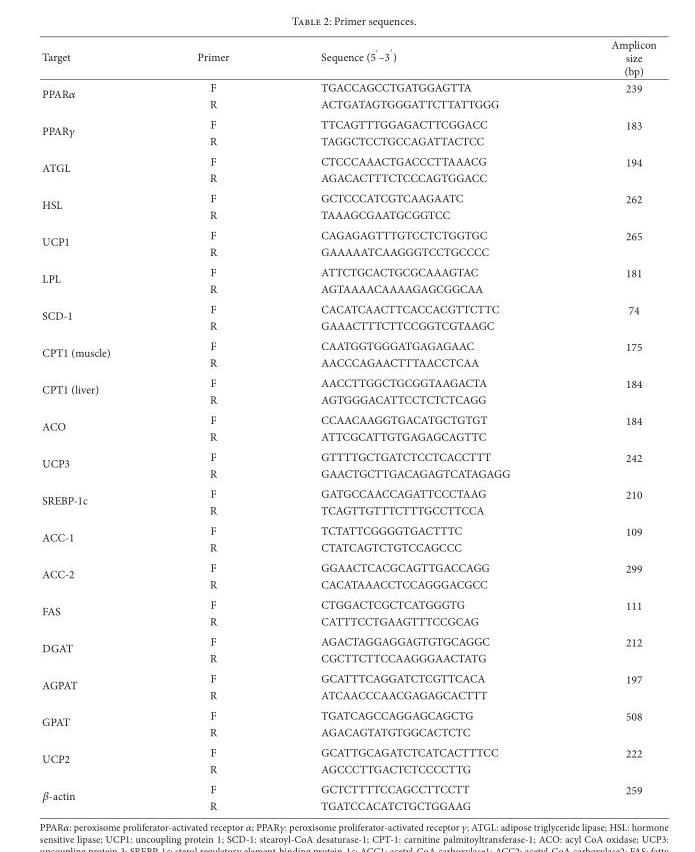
<table><thead><tr><td>Target</td><td>Primer</td><td>Sequence (5′–3′)</td><td>Amplicon size (bp)</td></tr></thead><tbody><tr><td rowspan="2">PPAR𝛼𝛼</td><td>F</td><td>TGACCAGCCTGATGGAGTTA</td><td>239</td></tr><tr><td>R</td><td>ACTGATAGTGGGATTCTTATTGGG</td><td></td></tr><tr><td rowspan="2">PPAR𝛾𝛾</td><td>F</td><td>TTCAGTTTGGAGACTTCGGACC</td><td>183</td></tr><tr><td>R</td><td>TAGGCTCCTGCCAGATTACTCC</td><td></td></tr><tr><td rowspan="2">ATGL</td><td>F</td><td>CTCCCAAACTGACCCTTAAACG</td><td>194</td></tr><tr><td>R</td><td>AGACACTTTCTCCCAGTGGACC</td><td></td></tr><tr><td rowspan="2">HSL</td><td>F</td><td>GCTCCCATCGTCAAGAATC</td><td>262</td></tr><tr><td>R</td><td>TAAAGCGAATGCGGTCC</td><td></td></tr><tr><td rowspan="2">UCP1</td><td>F</td><td>CAGAGAGTTTGTCCTCTGGTGC</td><td>265</td></tr><tr><td>R</td><td>GAAAAATCAAGGGTCCTGCCCC</td><td></td></tr><tr><td rowspan="2">LPL</td><td>F</td><td>ATTCTGCACTGCGCAAAGTAC</td><td>181</td></tr><tr><td>R</td><td>AGTAAAACAAAAGAGCGGCAA</td><td></td></tr><tr><td rowspan="2">SCD-1</td><td>F</td><td>CACATCAACTTCACCACGTTCTTC</td><td>74</td></tr><tr><td>R</td><td>GAAACTTTCTTCCGGTCGTAAGC</td><td></td></tr><tr><td rowspan="2">CPT1 (muscle)</td><td>F</td><td>CAATGGTGGGATGAGAGAAC</td><td>175</td></tr><tr><td>R</td><td>AACCCAGAACTTTAACCTCAA</td><td></td></tr><tr><td rowspan="2">CPT1 (liver)</td><td>F</td><td>AACCTTGGCTGCGGTAAGACTA</td><td>184</td></tr><tr><td>R</td><td>AGTGGGACATTCCTCTCTCAGG</td><td></td></tr><tr><td rowspan="2">ACO</td><td>F</td><td>CCAACAAGGTGACATGCTGTGT</td><td>184</td></tr><tr><td>R</td><td>ATTCGCATTGTGAGAGCAGTTC</td><td></td></tr><tr><td rowspan="2">UCP3</td><td>F</td><td>GTTTTGCTGATCTCCTCACCTTT</td><td>242</td></tr><tr><td>R</td><td>GAACTGCTTGACAGAGTCATAGAGG</td><td></td></tr><tr><td rowspan="2">SREBP-1c</td><td>F</td><td>GATGCCAACCAGATTCCCTAAG</td><td>210</td></tr><tr><td>R</td><td>TCAGTTGTTTCTTTGCCTTCCA</td><td></td></tr><tr><td rowspan="2">ACC-1</td><td>F</td><td>TCTATTCGGGGTGACTTTC</td><td>109</td></tr><tr><td>R</td><td>CTATCAGTCTGTCCAGCCC</td><td></td></tr><tr><td rowspan="2">ACC-2</td><td>F</td><td>GGAACTCACGCAGTTGACCAGG</td><td>299</td></tr><tr><td>R</td><td>CACATAAACCTCCAGGGACGCC</td><td></td></tr><tr><td rowspan="2">FAS</td><td>F</td><td>CTGGACTCGCTCATGGGTG</td><td>111</td></tr><tr><td>R</td><td>CATTTCCTGAAGTTTCCGCAG</td><td></td></tr><tr><td rowspan="2">DGAT</td><td>F</td><td>AGACTAGGAGGAGTGTGCAGGC</td><td>212</td></tr><tr><td>R</td><td>CGCTTCTTCCAAGGGAACTATG</td><td></td></tr><tr><td rowspan="2">AGPAT</td><td>F</td><td>GCATTTCAGGATCTCGTTCACA</td><td>197</td></tr><tr><td>R</td><td>ATCAACCCAACGAGAGCACTTT</td><td></td></tr><tr><td rowspan="2">GPAT</td><td>F</td><td>TGATCAGCCAGGAGCAGCTG</td><td>508</td></tr><tr><td>R</td><td>AGACAGTATGTGGCACTCTC</td><td></td></tr><tr><td rowspan="2">UCP2</td><td>F</td><td>GCATTGCAGATCTCATCACTTTCC</td><td>222</td></tr><tr><td>R</td><td>AGCCCTTGACTCTCCCCTTG</td><td></td></tr><tr><td rowspan="2">𝛽𝛽-actin</td><td>F</td><td>GCTCTTTTCCAGCCTTCCTT</td><td>259</td></tr><tr><td>R</td><td>TGATCCACATCTGCTGGAAG</td><td></td></tr></tbody></table>